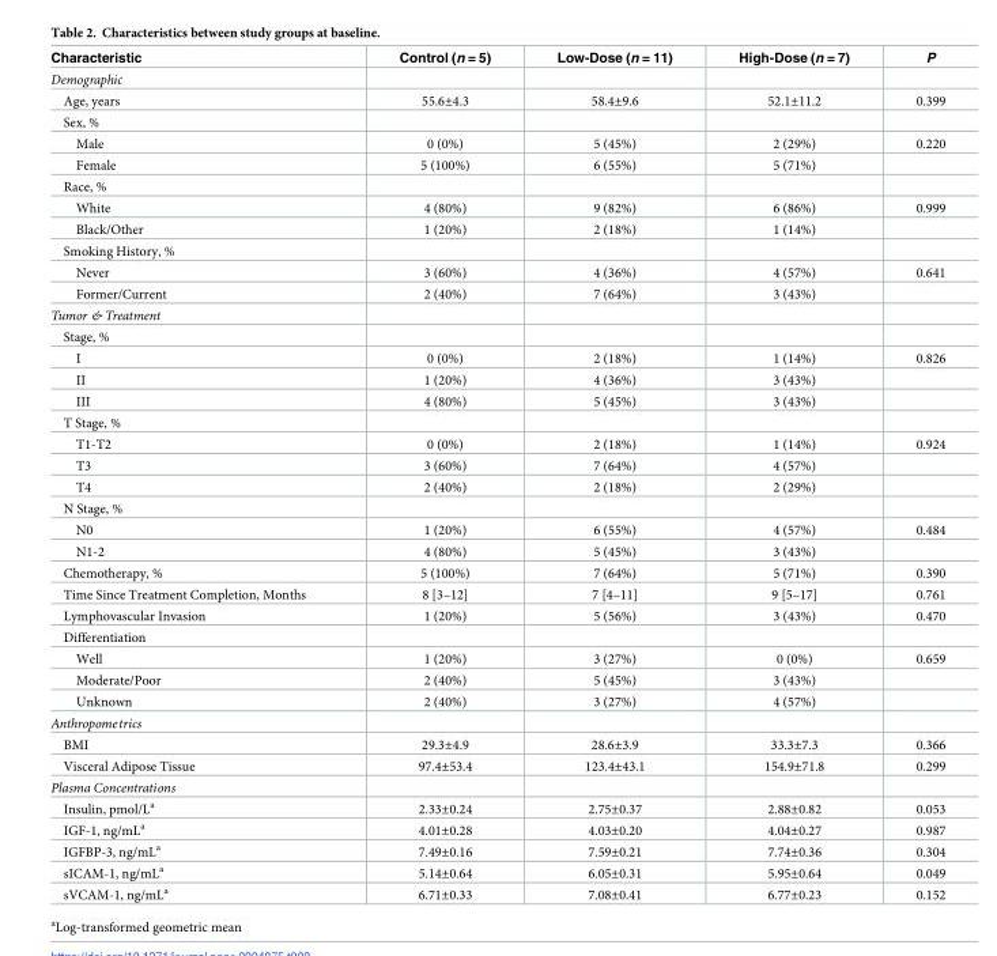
<table><thead><tr><td>Characteristic</td><td>Control (n = 5)</td><td>Low-Dose (n = 11)</td><td>High-Dose (n = 7)</td><td>P</td></tr></thead><tbody><tr><td colspan="5">Demographic</td></tr><tr><td>Age, years</td><td>55.6±4.3</td><td>58.4±9.6</td><td>52.1±11.2</td><td>0.399</td></tr><tr><td colspan="5">Sex, %</td></tr><tr><td>Male</td><td>0 (0%)</td><td>5 (45%)</td><td>2 (29%)</td><td>0.220</td></tr><tr><td>Female</td><td>5 (100%)</td><td>6 (55%)</td><td>5 (71%)</td><td></td></tr><tr><td colspan="5">Race, %</td></tr><tr><td>White</td><td>4 (80%)</td><td>9 (82%)</td><td>6 (86%)</td><td>0.999</td></tr><tr><td>Black/Other</td><td>1 (20%)</td><td>2 (18%)</td><td>1 (14%)</td><td></td></tr><tr><td colspan="5">Smoking History, %</td></tr><tr><td>Never</td><td>3 (60%)</td><td>4 (36%)</td><td>4 (57%)</td><td>0.641</td></tr><tr><td>Former/Current</td><td>2 (40%)</td><td>7 (64%)</td><td>3 (43%)</td><td></td></tr><tr><td colspan="5">Tumor &amp; Treatment</td></tr><tr><td colspan="5">Stage, %</td></tr><tr><td>I</td><td>0 (0%)</td><td>2 (18%)</td><td>1 (14%)</td><td>0.826</td></tr><tr><td>II</td><td>1 (20%)</td><td>4 (36%)</td><td>3 (43%)</td><td></td></tr><tr><td>III</td><td>4 (80%)</td><td>5 (45%)</td><td>3 (43%)</td><td></td></tr><tr><td colspan="5">T Stage, %</td></tr><tr><td>T1-T2</td><td>0 (0%)</td><td>2 (18%)</td><td>1 (14%)</td><td>0.924</td></tr><tr><td>T3</td><td>3 (60%)</td><td>7 (64%)</td><td>4 (57%)</td><td></td></tr><tr><td>T4</td><td>2 (40%)</td><td>2 (18%)</td><td>2 (29%)</td><td></td></tr><tr><td colspan="5">N Stage, %</td></tr><tr><td>N0</td><td>1 (20%)</td><td>6 (55%)</td><td>4 (57%)</td><td>0.484</td></tr><tr><td>N1-2</td><td>4 (80%)</td><td>5 (45%)</td><td>3 (43%)</td><td></td></tr><tr><td>Chemotherapy, %</td><td>5 (100%)</td><td>7 (64%)</td><td>5 (71%)</td><td>0.390</td></tr><tr><td>Time Since Treatment Completion, Months</td><td>8 [3–12]</td><td>7 [4–11]</td><td>9 [5–17]</td><td>0.761</td></tr><tr><td>Lymphovascular Invasion</td><td>1 (20%)</td><td>5 (56%)</td><td>3 (43%)</td><td>0.470</td></tr><tr><td colspan="5">Differentiation</td></tr><tr><td>Well</td><td>1 (20%)</td><td>3 (27%)</td><td>0 (0%)</td><td>0.659</td></tr><tr><td>Moderate/Poor</td><td>2 (40%)</td><td>5 (45%)</td><td>3 (43%)</td><td></td></tr><tr><td>Unknown</td><td>2 (40%)</td><td>3 (27%)</td><td>4 (57%)</td><td></td></tr><tr><td colspan="5">Anthropometrics</td></tr><tr><td>BMI</td><td>29.3±4.9</td><td>28.6±3.9</td><td>33.3±7.3</td><td>0.366</td></tr><tr><td>Visceral Adipose Tissue</td><td>97.4±53.4</td><td>123.4±43.1</td><td>154.9±71.8</td><td>0.299</td></tr><tr><td colspan="5">Plasma Concentrations</td></tr><tr><td>Insulin, pmol/L<sup>a</sup></td><td>2.33±0.24</td><td>2.75±0.37</td><td>2.88±0.82</td><td>0.053</td></tr><tr><td>IGF-1, ng/mL<sup>a</sup></td><td>4.01±0.28</td><td>4.03±0.20</td><td>4.04±0.27</td><td>0.987</td></tr><tr><td>IGFBP-3, ng/mL<sup>a</sup></td><td>7.49±0.16</td><td>7.59±0.21</td><td>7.74±0.36</td><td>0.304</td></tr><tr><td>sICAM-1, ng/mL<sup>a</sup></td><td>5.14±0.64</td><td>6.05±0.31</td><td>5.95±0.64</td><td>0.049</td></tr><tr><td>sVCAM-1, ng/mL<sup>a</sup></td><td>6.71±0.33</td><td>7.08±0.41</td><td>6.77±0.23</td><td>0.152</td></tr></tbody></table>